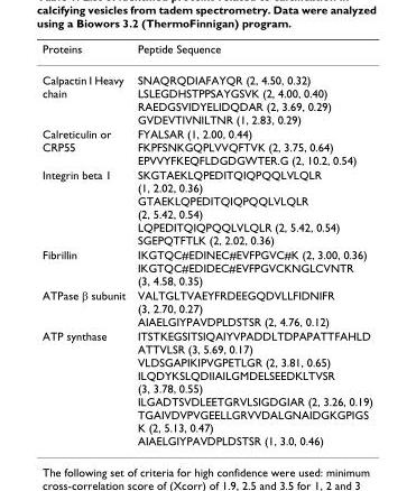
<table><thead><tr><td>Proteins</td><td>Peptide Sequence</td></tr></thead><tbody><tr><td>Calpactin I Heavy chain</td><td>SNAQRQDIAFAYQR (2, 4.50, 0.32) LSLEGDHSTPPSAYGSVK (2, 4.00, 0.40) RAEDGSVIDYELIDQDAR (2, 3.69, 0.29) GVDEVTIVNILTNR (1, 2.83, 0.29)</td></tr><tr><td>Calreticulin or CRP55</td><td>FYALSAR (1, 2.00, 0.44) FKPFSNKGQPLVVQFTVK (2, 3.75, 0.64) EPVVYFKEQFLDGDGWTER.G (2, 10.2, 0.54)</td></tr><tr><td>Integrin beta 1</td><td>SKGTAEKLQPEDITQIQPQQLVLQLR (1, 2.02, 0.36) GTAEKLQPEDITQIQPQQLVLQLR (2, 5.42, 0.54) LQPEDITQIQPQQLVLQLR (2, 5.42, 0.54) SGEPQTFTLK (2, 2.02, 0.36)</td></tr><tr><td>Fibrillin</td><td>IKGTQC#EDINEC#EVFPGVC#K (2, 3.00, 0.36) IKGTQC#EDIDEC#EVFPGVCKNGLCVNTR (3, 4.58, 0.35)</td></tr><tr><td>ATPase β subunit</td><td>VALTGLTVAEYFRDEEGQDVLLFIDNIFR (3, 2.70, 0.27) AIAELGIYPAVDPLDSTSR (2, 4.76, 0.12)</td></tr><tr><td>ATP synthase</td><td>ITSTKEGSITSIQAIYVPADDLTDPAPATTFAHLD ATTVLSR (3, 5.69, 0.17) VLDSGAPIKIPVGPETLGR (2, 3.81, 0.65) ILQDYKSLQDIIAILGMDELSEEDKLTVSR (3, 3.78, 0.55) ILGADTSVDLEETGRVLSIGDGIAR (2, 3.26, 0.19) TGAIVDVPVGEELLGRVVDALGNAIDGKGPIGS K (2, 5.13, 0.47) AIAELGIYPAVDPLDSTSR (1, 3.0, 0.46)</td></tr></tbody></table>